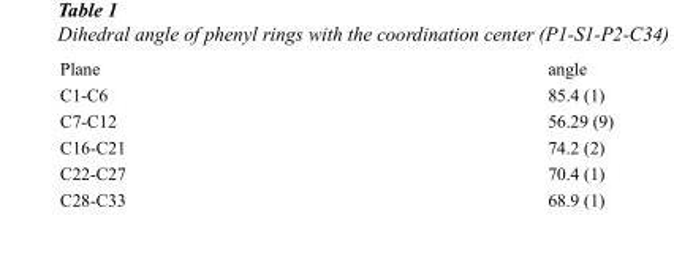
<table><tbody><tr><td>Plane</td><td>angle</td></tr><tr><td>C1-C6</td><td>85.4 (1)</td></tr><tr><td>C7-C12</td><td>56.29 (9)</td></tr><tr><td>C16-C21</td><td>74.2 (2)</td></tr><tr><td>C22-C27</td><td>70.4 (1)</td></tr><tr><td>C28-C33</td><td>68.9 (1)</td></tr></tbody></table>